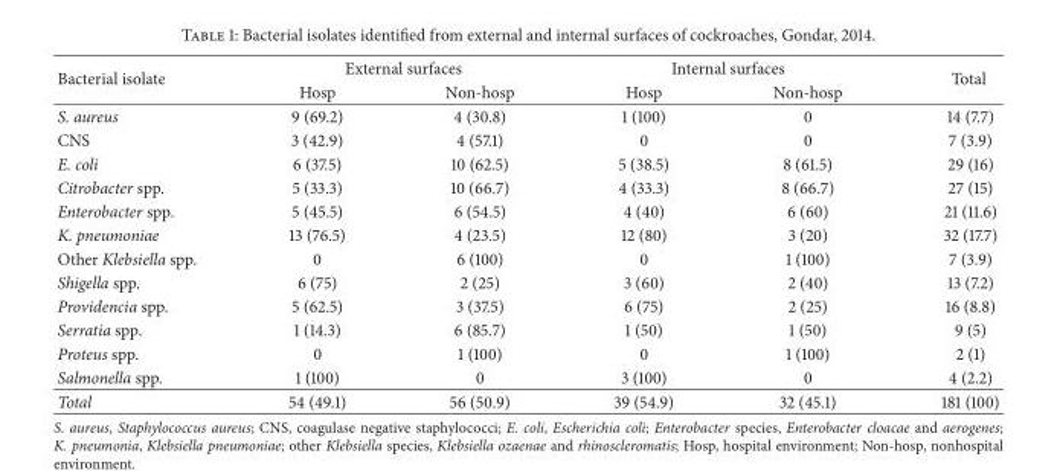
<table><thead><tr><td rowspan="2">Bacterial isolate</td><td colspan="2">External surfaces</td><td colspan="2">Internal surfaces</td><td rowspan="2">Total</td></tr><tr><td>Hosp</td><td>Non-hosp</td><td>Hosp</td><td>Non-hosp</td></tr></thead><tbody><tr><td>S. aureus</td><td>9 (69.2)</td><td>4 (30.8)</td><td>1 (100)</td><td>0</td><td>14 (7.7)</td></tr><tr><td>CNS</td><td>3 (42.9)</td><td>4 (57.1)</td><td>0</td><td>0</td><td>7 (3.9)</td></tr><tr><td>E. coli</td><td>6 (37.5)</td><td>10 (62.5)</td><td>5 (38.5)</td><td>8 (61.5)</td><td>29 (16)</td></tr><tr><td>Citrobacter spp.</td><td>5 (33.3)</td><td>10 (66.7)</td><td>4 (33.3)</td><td>8 (66.7)</td><td>27 (15)</td></tr><tr><td>Enterobacter spp.</td><td>5 (45.5)</td><td>6 (54.5)</td><td>4 (40)</td><td>6 (60)</td><td>21 (11.6)</td></tr><tr><td>K. pneumoniae</td><td>13 (76.5)</td><td>4 (23.5)</td><td>12 (80)</td><td>3 (20)</td><td>32 (17.7)</td></tr><tr><td>Other Klebsiella spp.</td><td>0</td><td>6 (100)</td><td>0</td><td>1 (100)</td><td>7 (3.9)</td></tr><tr><td>Shigella spp.</td><td>6 (75)</td><td>2 (25)</td><td>3 (60)</td><td>2 (40)</td><td>13 (7.2)</td></tr><tr><td>Providencia spp.</td><td>5 (62.5)</td><td>3 (37.5)</td><td>6 (75)</td><td>2 (25)</td><td>16 (8.8)</td></tr><tr><td>Serratia spp.</td><td>1 (14.3)</td><td>6 (85.7)</td><td>1 (50)</td><td>1 (50)</td><td>9 (5)</td></tr><tr><td>Proteus spp.</td><td>0</td><td>1 (100)</td><td>0</td><td>1 (100)</td><td>2 (1)</td></tr><tr><td>Salmonella spp.</td><td>1 (100)</td><td>0</td><td>3 (100)</td><td>0</td><td>4 (2.2)</td></tr><tr><td>Total</td><td>54 (49.1)</td><td>56 (50.9)</td><td>39 (54.9)</td><td>32 (45.1)</td><td>181 (100)</td></tr></tbody></table>